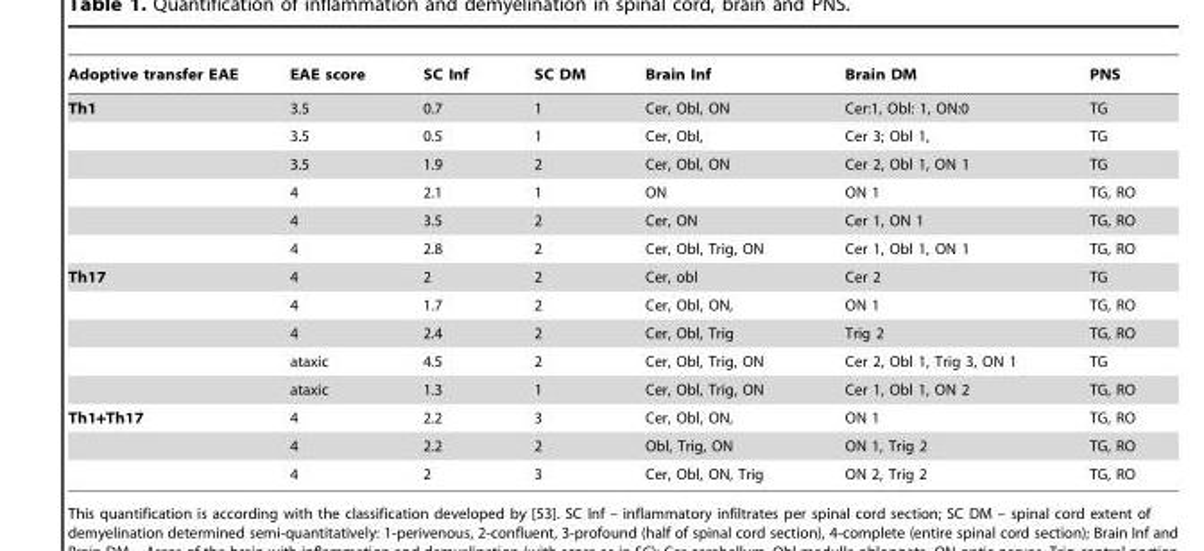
<table><thead><tr><td>Adoptive transfer EAE</td><td>EAE score</td><td>SC Inf</td><td>SC DM</td><td>Brain Inf</td><td>Brain DM</td><td>PNS</td></tr></thead><tbody><tr><td rowspan="6">Th1</td><td>3.5</td><td>0.7</td><td>1</td><td>Cer, Obl, ON</td><td>Cer:1, Obl: 1, ON:0</td><td>TG</td></tr><tr><td>3.5</td><td>0.5</td><td>1</td><td>Cer, Obl,</td><td>Cer 3; Obl 1,</td><td>TG</td></tr><tr><td>3.5</td><td>1.9</td><td>2</td><td>Cer, Obl, ON</td><td>Cer 2, Obl 1, ON 1</td><td>TG</td></tr><tr><td>4</td><td>2.1</td><td>1</td><td>ON</td><td>ON 1</td><td>TG, RO</td></tr><tr><td>4</td><td>3.5</td><td>2</td><td>Cer, ON</td><td>Cer 1, ON 1</td><td>TG, RO</td></tr><tr><td>4</td><td>2.8</td><td>2</td><td>Cer, Obl, Trig, ON</td><td>Cer 1, Obl 1, ON 1</td><td>TG, RO</td></tr><tr><td rowspan="5">Th17</td><td>4</td><td>2</td><td>2</td><td>Cer, obl</td><td>Cer 2</td><td>TG</td></tr><tr><td>4</td><td>1.7</td><td>2</td><td>Cer, Obl, ON,</td><td>ON 1</td><td>TG, RO</td></tr><tr><td>4</td><td>2.4</td><td>2</td><td>Cer, Obl, Trig</td><td>Trig 2</td><td>TG, RO</td></tr><tr><td>ataxic</td><td>4.5</td><td>2</td><td>Cer, Obl, Trig, ON</td><td>Cer 2, Obl 1, Trig 3, ON 1</td><td>TG</td></tr><tr><td>ataxic</td><td>1.3</td><td>1</td><td>Cer, Obl, Trig, ON</td><td>Cer 1, Obl 1, ON 2</td><td>TG, RO</td></tr><tr><td rowspan="3">Th1+Th17</td><td>4</td><td>2.2</td><td>3</td><td>Cer, Obl, ON,</td><td>ON 1</td><td>TG, RO</td></tr><tr><td>4</td><td>2.2</td><td>2</td><td>Obl, Trig, ON</td><td>ON 1, Trig 2</td><td>TG, RO</td></tr><tr><td>4</td><td>2</td><td>3</td><td>Cer, Obl, ON, Trig</td><td>ON 2, Trig 2</td><td>TG, RO</td></tr></tbody></table>